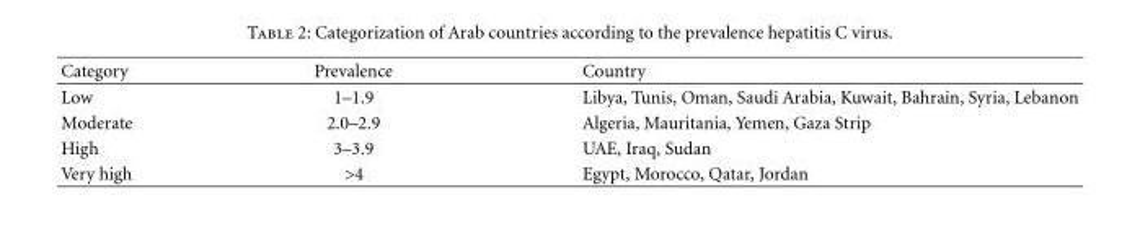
<table><thead><tr><td>Category</td><td>Prevalence</td><td>Country</td></tr></thead><tbody><tr><td>Low</td><td>1–1.9</td><td>Libya, Tunis, Oman, Saudi Arabia, Kuwait, Bahrain, Syria, Lebanon</td></tr><tr><td>Moderate</td><td>2.0–2.9</td><td>Algeria, Mauritania, Yemen, Gaza Strip</td></tr><tr><td>High</td><td>3–3.9</td><td>UAE, Iraq, Sudan</td></tr><tr><td>Very high</td><td>&gt;4</td><td>Egypt, Morocco, Qatar, Jordan</td></tr></tbody></table>